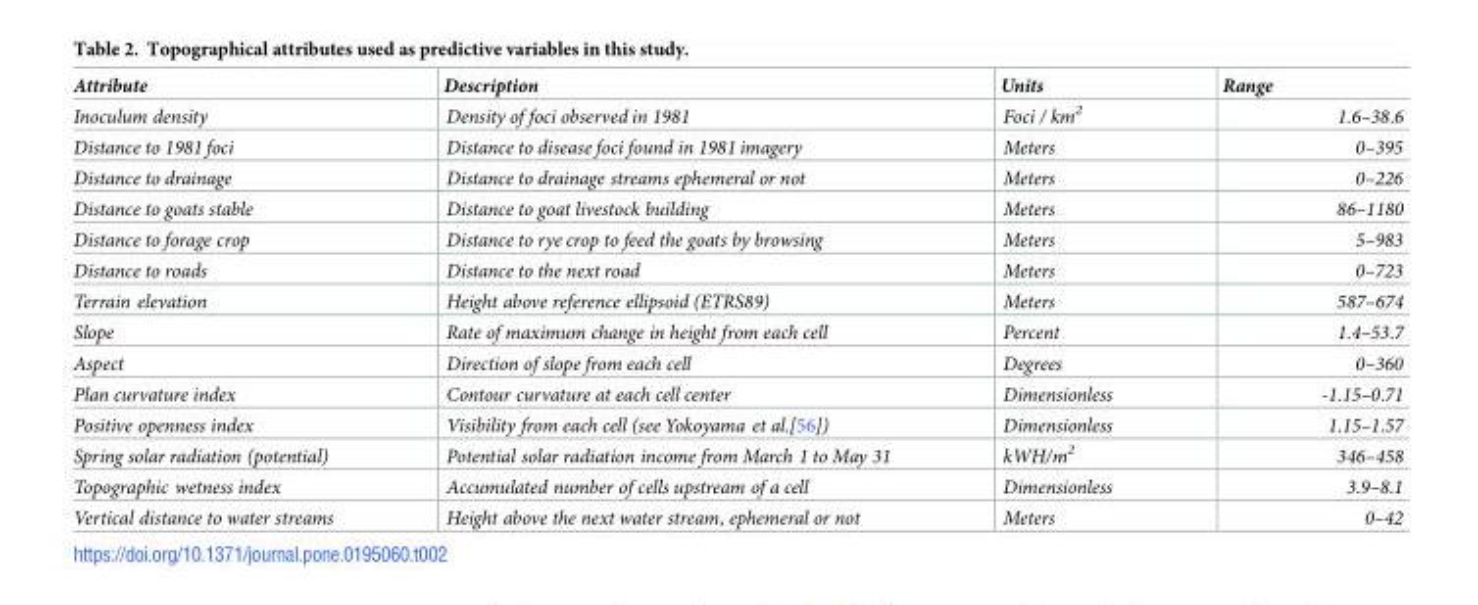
<table><thead><tr><td>Attribute</td><td>Description</td><td>Units</td><td>Range</td></tr></thead><tbody><tr><td>Inoculum density</td><td>Density of foci observed in 1981</td><td>Foci / km<sup>2</sup></td><td>1.6–38.6</td></tr><tr><td>Distance to 1981 foci</td><td>Distance to disease foci found in 1981 imagery</td><td>Meters</td><td>0–395</td></tr><tr><td>Distance to drainage</td><td>Distance to drainage streams ephemeral or not</td><td>Meters</td><td>0–226</td></tr><tr><td>Distance to goats stable</td><td>Distance to goat livestock building</td><td>Meters</td><td>86–1180</td></tr><tr><td>Distance to forage crop</td><td>Distance to rye crop to feed the goats by browsing</td><td>Meters</td><td>5–983</td></tr><tr><td>Distance to roads</td><td>Distance to the next road</td><td>Meters</td><td>0–723</td></tr><tr><td>Terrain elevation</td><td>Height above reference ellipsoid (ETRS89)</td><td>Meters</td><td>587–674</td></tr><tr><td>Slope</td><td>Rate of maximum change in height from each cell</td><td>Percent</td><td>1.4–53.7</td></tr><tr><td>Aspect</td><td>Direction of slope from each cell</td><td>Degrees</td><td>0–360</td></tr><tr><td>Plan curvature index</td><td>Contour curvature at each cell center</td><td>Dimensionless</td><td>-1.15–0.71</td></tr><tr><td>Positive openness index</td><td>Visibility from each cell (see Yokoyama et al.[56])</td><td>Dimensionless</td><td>1.15–1.57</td></tr><tr><td>Spring solar radiation (potential)</td><td>Potential solar radiation income from March 1 to May 31</td><td>kWH/m<sup>2</sup></td><td>346–458</td></tr><tr><td>Topographic wetness index</td><td>Accumulated number of cells upstream of a cell</td><td>Dimensionless</td><td>3.9–8.1</td></tr><tr><td>Vertical distance to water streams</td><td>Height above the next water stream, ephemeral or not</td><td>Meters</td><td>0–42</td></tr></tbody></table>